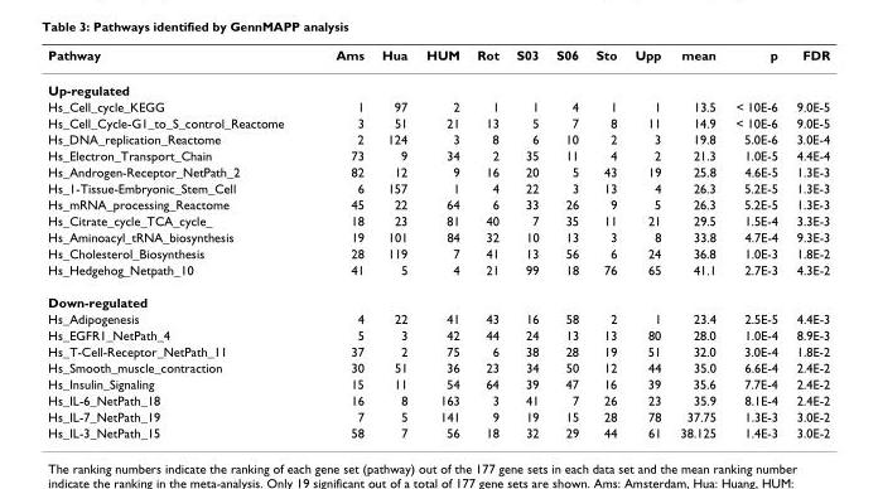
<table><thead><tr><td>Pathway</td><td>Ams</td><td>Hua</td><td>HUM</td><td>Rot</td><td>S03</td><td>S06</td><td>Sto</td><td>Upp</td><td>mean</td><td>p</td><td>FDR</td></tr></thead><tbody><tr><td colspan="12">Up-regulated</td></tr><tr><td>Hs_Cell_cycle_KEGG</td><td>1</td><td>97</td><td>2</td><td>1</td><td>1</td><td>4</td><td>1</td><td>1</td><td>13.5</td><td>&lt; 10E-6</td><td>9.0E-5</td></tr><tr><td>Hs_Cell_Cycle-G1_to_S_control_Reactome</td><td>3</td><td>51</td><td>21</td><td>13</td><td>5</td><td>7</td><td>8</td><td>11</td><td>14.9</td><td>&lt; 10E-6</td><td>9.0E-5</td></tr><tr><td>Hs_DNA_replication_Reactome</td><td>2</td><td>124</td><td>3</td><td>8</td><td>6</td><td>10</td><td>2</td><td>3</td><td>19.8</td><td>5.0E-6</td><td>3.0E-4</td></tr><tr><td>Hs_Electron_Transport_Chain</td><td>73</td><td>9</td><td>34</td><td>2</td><td>35</td><td>11</td><td>4</td><td>2</td><td>21.3</td><td>1.0E-5</td><td>4.4E-4</td></tr><tr><td>Hs_Androgen-Receptor_NetPath_2</td><td>82</td><td>12</td><td>9</td><td>16</td><td>20</td><td>5</td><td>43</td><td>19</td><td>25.8</td><td>4.6E-5</td><td>1.3E-3</td></tr><tr><td>Hs_1-Tissue-Embryonic_Stem_Cell</td><td>6</td><td>157</td><td>1</td><td>4</td><td>22</td><td>3</td><td>13</td><td>4</td><td>26.3</td><td>5.2E-5</td><td>1.3E-3</td></tr><tr><td>Hs_mRNA_processing_Reactome</td><td>45</td><td>22</td><td>64</td><td>6</td><td>33</td><td>26</td><td>9</td><td>5</td><td>26.3</td><td>5.2E-5</td><td>1.3E-3</td></tr><tr><td>Hs_Citrate_cycle_TCA_cycle_</td><td>18</td><td>23</td><td>81</td><td>40</td><td>7</td><td>35</td><td>11</td><td>21</td><td>29.5</td><td>1.5E-4</td><td>3.3E-3</td></tr><tr><td>Hs_Aminoacyl_tRNA_biosynthesis</td><td>19</td><td>101</td><td>84</td><td>32</td><td>10</td><td>13</td><td>3</td><td>8</td><td>33.8</td><td>4.7E-4</td><td>9.3E-3</td></tr><tr><td>Hs_Cholesterol_Biosynthesis</td><td>28</td><td>119</td><td>7</td><td>41</td><td>13</td><td>56</td><td>6</td><td>24</td><td>36.8</td><td>1.0E-3</td><td>1.8E-2</td></tr><tr><td>Hs_Hedgehog_Netpath_10</td><td>41</td><td>5</td><td>4</td><td>21</td><td>99</td><td>18</td><td>76</td><td>65</td><td>41.1</td><td>2.7E-3</td><td>4.3E-2</td></tr><tr><td colspan="12">Down-regulated</td></tr><tr><td>Hs_Adipogenesis</td><td>4</td><td>22</td><td>41</td><td>43</td><td>16</td><td>58</td><td>2</td><td>1</td><td>23.4</td><td>2.5E-5</td><td>4.4E-3</td></tr><tr><td>Hs_EGFR1_NetPath_4</td><td>5</td><td>3</td><td>42</td><td>44</td><td>24</td><td>13</td><td>13</td><td>80</td><td>28.0</td><td>1.0E-4</td><td>8.9E-3</td></tr><tr><td>Hs_T-Cell-Receptor_NetPath_11</td><td>37</td><td>2</td><td>75</td><td>6</td><td>38</td><td>28</td><td>19</td><td>51</td><td>32.0</td><td>3.0E-4</td><td>1.8E-2</td></tr><tr><td>Hs_Smooth_muscle_contraction</td><td>30</td><td>51</td><td>36</td><td>23</td><td>34</td><td>50</td><td>12</td><td>44</td><td>35.0</td><td>6.6E-4</td><td>2.4E-2</td></tr><tr><td>Hs_Insulin_Signaling</td><td>15</td><td>11</td><td>54</td><td>64</td><td>39</td><td>47</td><td>16</td><td>39</td><td>35.6</td><td>7.7E-4</td><td>2.4E-2</td></tr><tr><td>Hs_IL-6_NetPath_18</td><td>16</td><td>8</td><td>163</td><td>3</td><td>41</td><td>7</td><td>26</td><td>23</td><td>35.9</td><td>8.1E-4</td><td>2.4E-2</td></tr><tr><td>Hs_IL-7_NetPath_19</td><td>7</td><td>5</td><td>141</td><td>9</td><td>19</td><td>15</td><td>28</td><td>78</td><td>37.75</td><td>1.3E-3</td><td>3.0E-2</td></tr><tr><td>Hs_IL-3_NetPath_15</td><td>58</td><td>7</td><td>56</td><td>18</td><td>32</td><td>29</td><td>44</td><td>61</td><td>38.125</td><td>1.4E-3</td><td>3.0E-2</td></tr></tbody></table>